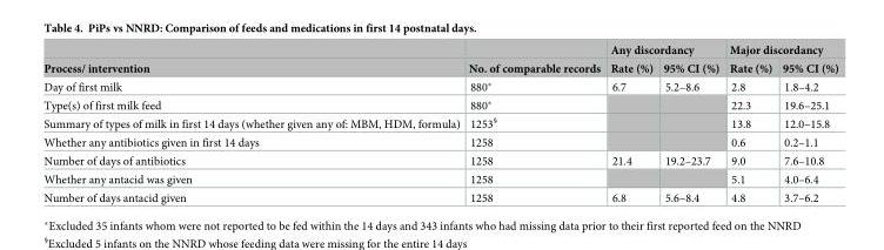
<table><thead><tr><td rowspan="2">Process/ intervention</td><td rowspan="2">No. of comparable records</td><td colspan="2">Any discordancy</td><td colspan="2">Major discordancy</td></tr><tr><td>Rate (%)</td><td>95% CI (%)</td><td>Rate (%)</td><td>95% CI (%)</td></tr></thead><tbody><tr><td>Day of first milk</td><td>880*</td><td>6.7</td><td>5.2–8.6</td><td>2.8</td><td>1.8–4.2</td></tr><tr><td>Type(s) of first milk feed</td><td>880*</td><td></td><td></td><td>22.3</td><td>19.6–25.1</td></tr><tr><td>Summary of types of milk in first 14 days (whether given any of: MBM, HDM, formula)</td><td>1253<sup>§</sup></td><td></td><td></td><td>13.8</td><td>12.0–15.8</td></tr><tr><td>Whether any antibiotics given in first 14 days</td><td>1258</td><td></td><td></td><td>0.6</td><td>0.2–1.1</td></tr><tr><td>Number of days of antibiotics</td><td>1258</td><td>21.4</td><td>19.2–23.7</td><td>9.0</td><td>7.6–10.8</td></tr><tr><td>Whether any antacid was given</td><td>1258</td><td></td><td></td><td>5.1</td><td>4.0–6.4</td></tr><tr><td>Number of days antacid given</td><td>1258</td><td>6.8</td><td>5.6–8.4</td><td>4.8</td><td>3.7–6.2</td></tr></tbody></table>